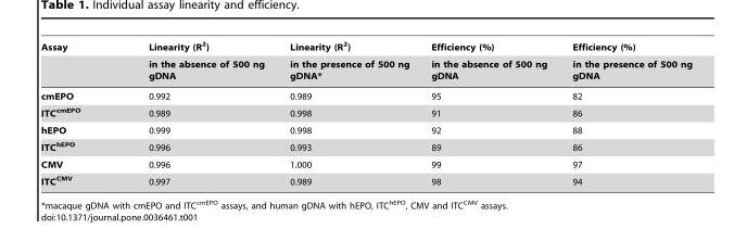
<table><thead><tr><td rowspan="2">Assay</td><td rowspan="2">Linearity (R<sup>2</sup>) in the absence of 500 ng gDNA</td><td rowspan="2">Linearity (R2) in the presence of 500 ng gDNA*</td><td rowspan="2">Efficiency (%) in the absence of 500 ng gDNA</td><td rowspan="2">Efficiency (%) in the presence of 500 ng gDNA</td></tr><tr></tr></thead><tbody><tr><td>cmEPO</td><td>0.992</td><td>0.989</td><td>95</td><td>82</td></tr><tr><td>ITC<sup>cmEPO</sup></td><td>0.989</td><td>0.998</td><td>91</td><td>86</td></tr><tr><td>hEPO</td><td>0.999</td><td>0.998</td><td>92</td><td>88</td></tr><tr><td>ITC<sup>hEPO</sup></td><td>0.996</td><td>0.993</td><td>89</td><td>86</td></tr><tr><td>CMV</td><td>0.996</td><td>1.000</td><td>99</td><td>97</td></tr><tr><td>ITC<sup>CMV</sup></td><td>0.997</td><td>0.989</td><td>98</td><td>94</td></tr></tbody></table>